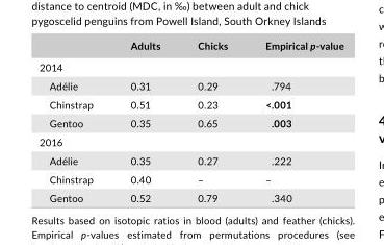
<table><thead><tr><td></td><td>Adults</td><td>Chicks</td><td>Empirical p- value</td></tr></thead><tbody><tr><td colspan="4">2014</td></tr><tr><td>Adélie</td><td>0.31</td><td>0.29</td><td>.794</td></tr><tr><td>Chinstrap</td><td>0.51</td><td>0.23</td><td>&lt;.001</td></tr><tr><td>Gentoo</td><td>0.35</td><td>0.65</td><td>.003</td></tr><tr><td colspan="4">2016</td></tr><tr><td>Adélie</td><td>0.35</td><td>0.27</td><td>.222</td></tr><tr><td>Chinstrap</td><td>0.40</td><td>–</td><td>–</td></tr><tr><td>Gentoo</td><td>0.52</td><td>0.79</td><td>.340</td></tr></tbody></table>